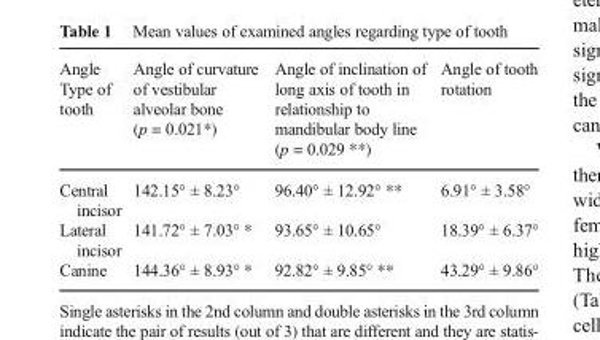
<table><thead><tr><td rowspan="2">Angle Type of tooth</td><td rowspan="2">Angle of curvature of vestibular alveolar bone (p = 0.021*)</td><td rowspan="2">Angle of inclination of long axis of tooth in relationship to mandibular body line (p = 0.029 **)</td><td rowspan="2">Angle of tooth rotation</td></tr><tr></tr></thead><tbody><tr><td>Central incisor</td><td>142.15° ± 8.23°</td><td>96.40° ± 12.92° **</td><td>6.91° ± 3.58°</td></tr><tr><td>Lateral incisor</td><td>141.72° ± 7.03° *</td><td>93.65° ± 10.65°</td><td>18.39° ± 6.37°</td></tr><tr><td>Canine</td><td>144.36° ± 8.93° *</td><td>92.82° ± 9.85° **</td><td>43.29° ± 9.86°</td></tr></tbody></table>